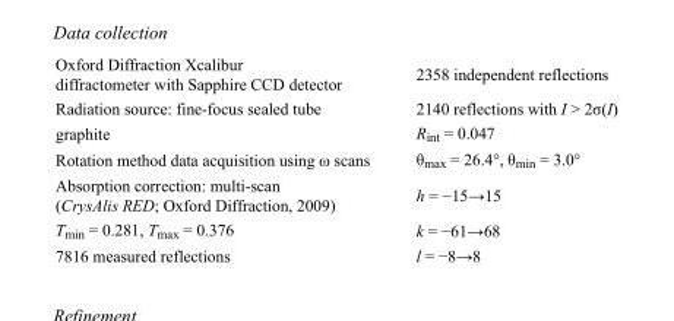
<table><tbody><tr><td>Oxford Diffraction Xcalibur diffractometer with Sapphire CCD detector</td><td>2358 independent reflections</td></tr><tr><td>Radiation source: fine-focus sealed tube</td><td>2140 reflections with I &gt; 2σ(I)</td></tr><tr><td>graphite</td><td>R<sub>int</sub> = 0.047</td></tr><tr><td>Rotation method data acquisition using ω scans</td><td>θ<sub>max</sub> = 26.4°, θ<sub>min</sub> = 3.0°</td></tr><tr><td>Absorption correction: multi-scan (CrysAlis RED; Oxford Diffraction, 2009)</td><td>h = −15→15</td></tr><tr><td>T<sub>min</sub> = 0.281, T<sub>max</sub> = 0.376</td><td>k = −61→68</td></tr><tr><td>7816 measured reflections</td><td>l = −8→8</td></tr></tbody></table>